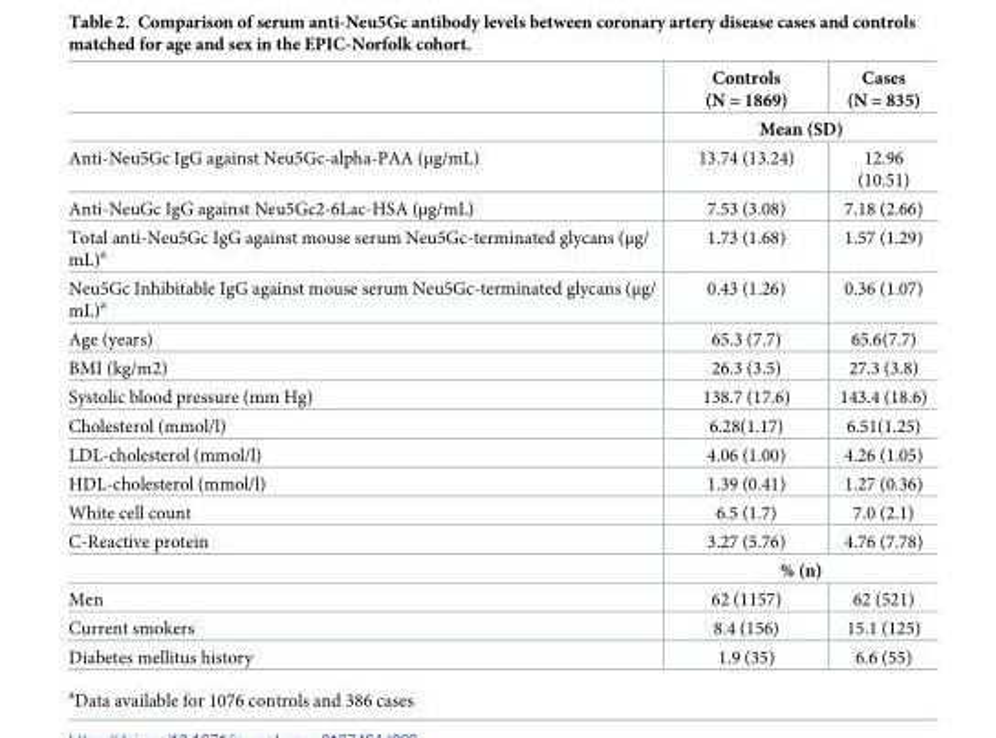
<table><thead><tr><td></td><td>Controls (N = 1869)</td><td>Cases (N = 835)</td></tr></thead><tbody><tr><td></td><td colspan="2">Mean (SD)</td></tr><tr><td>Anti-Neu5Gc IgG against Neu5Gc-alpha-PAA (μg/mL)</td><td>13.74 (13.24)</td><td>12.96 (10.51)</td></tr><tr><td>Anti-NeuGc IgG against Neu5Gc2-6Lac-HSA (μg/mL)</td><td>7.53 (3.08)</td><td>7.18 (2.66)</td></tr><tr><td>Total anti-Neu5Gc IgG against mouse serum Neu5Gc-terminated glycans (μg/ mL)<sup>a</sup></td><td>1.73 (1.68)</td><td>1.57 (1.29)</td></tr><tr><td>Neu5Gc Inhibitable IgG against mouse serum Neu5Gc-terminated glycans (μg/ mL)<sup>a</sup></td><td>0.43 (1.26)</td><td>0.36 (1.07)</td></tr><tr><td>Age (years)</td><td>65.3 (7.7)</td><td>65.6(7.7)</td></tr><tr><td>BMI (kg/m2)</td><td>26.3 (3.5)</td><td>27.3 (3.8)</td></tr><tr><td>Systolic blood pressure (mm Hg)</td><td>138.7 (17.6)</td><td>143.4 (18.6)</td></tr><tr><td>Cholesterol (mmol/l)</td><td>6.28(1.17)</td><td>6.51(1.25)</td></tr><tr><td>LDL-cholesterol (mmol/l)</td><td>4.06 (1.00)</td><td>4.26 (1.05)</td></tr><tr><td>HDL-cholesterol (mmol/l)</td><td>1.39 (0.41)</td><td>1.27 (0.36)</td></tr><tr><td>White cell count</td><td>6.5 (1.7)</td><td>7.0 (2.1)</td></tr><tr><td rowspan="2">C-Reactive protein</td><td>3.27 (5.76)</td><td>4.76 (7.78)</td></tr><tr><td colspan="2">% (n)</td></tr><tr><td>Men</td><td>62 (1157)</td><td>62 (521)</td></tr><tr><td>Current smokers</td><td>8.4 (156)</td><td>15.1 (125)</td></tr><tr><td>Diabetes mellitus history</td><td>1.9 (35)</td><td>6.6 (55)</td></tr></tbody></table>